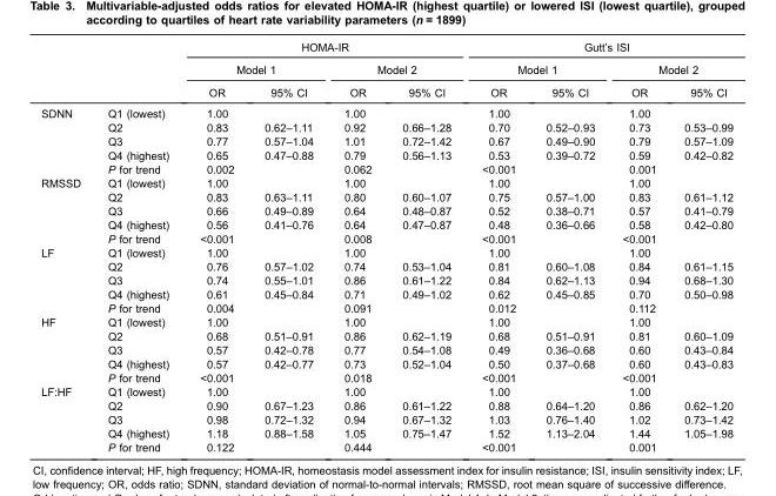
<table><thead><tr><td rowspan="3"></td><td rowspan="3"></td><td colspan="4">HOMA-IR</td><td colspan="4">Gutt’s ISI</td></tr><tr><td colspan="2">Model 1</td><td colspan="2">Model 2</td><td colspan="2">Model 1</td><td colspan="2">Model 2</td></tr><tr><td>OR</td><td>95% CI</td><td>OR</td><td>95% CI</td><td>OR</td><td>95% CI</td><td>OR</td><td>95% CI</td></tr></thead><tbody><tr><td rowspan="5">SDNN</td><td>Q1 (lowest)</td><td>1.00</td><td></td><td>1.00</td><td></td><td>1.00</td><td></td><td>1.00</td><td></td></tr><tr><td>Q2</td><td>0.83</td><td>0.62–1.11</td><td>0.92</td><td>0.66–1.28</td><td>0.70</td><td>0.52–0.93</td><td>0.73</td><td>0.53–0.99</td></tr><tr><td>Q3</td><td>0.77</td><td>0.57–1.04</td><td>1.01</td><td>0.72–1.42</td><td>0.67</td><td>0.49–0.90</td><td>0.79</td><td>0.57–1.09</td></tr><tr><td>Q4 (highest)</td><td>0.65</td><td>0.47–0.88</td><td>0.79</td><td>0.56–1.13</td><td>0.53</td><td>0.39–0.72</td><td>0.59</td><td>0.42–0.82</td></tr><tr><td>P for trend</td><td>0.002</td><td></td><td>0.062</td><td></td><td>&lt;0.001</td><td></td><td>0.001</td><td></td></tr><tr><td rowspan="5">RMSSD</td><td>Q1 (lowest)</td><td>1.00</td><td></td><td>1.00</td><td></td><td>1.00</td><td></td><td>1.00</td><td></td></tr><tr><td>Q2</td><td>0.83</td><td>0.63–1.11</td><td>0.80</td><td>0.60–1.07</td><td>0.75</td><td>0.57–1.00</td><td>0.83</td><td>0.61–1.12</td></tr><tr><td>Q3</td><td>0.66</td><td>0.49–0.89</td><td>0.64</td><td>0.48–0.87</td><td>0.52</td><td>0.38–0.71</td><td>0.57</td><td>0.41–0.79</td></tr><tr><td>Q4 (highest)</td><td>0.56</td><td>0.41–0.76</td><td>0.64</td><td>0.47–0.87</td><td>0.48</td><td>0.36–0.66</td><td>0.58</td><td>0.42–0.80</td></tr><tr><td>P for trend</td><td>&lt;0.001</td><td></td><td>0.008</td><td></td><td>&lt;0.001</td><td></td><td>&lt;0.001</td><td></td></tr><tr><td rowspan="5">LF</td><td>Q1 (lowest)</td><td>1.00</td><td></td><td>1.00</td><td></td><td>1.00</td><td></td><td>1.00</td><td></td></tr><tr><td>Q2</td><td>0.76</td><td>0.57–1.02</td><td>0.74</td><td>0.53–1.04</td><td>0.81</td><td>0.60–1.08</td><td>0.84</td><td>0.61–1.15</td></tr><tr><td>Q3</td><td>0.74</td><td>0.55–1.01</td><td>0.86</td><td>0.61–1.22</td><td>0.84</td><td>0.62–1.13</td><td>0.94</td><td>0.68–1.30</td></tr><tr><td>Q4 (highest)</td><td>0.61</td><td>0.45–0.84</td><td>0.71</td><td>0.49–1.02</td><td>0.62</td><td>0.45–0.85</td><td>0.70</td><td>0.50–0.98</td></tr><tr><td>P for trend</td><td>0.004</td><td></td><td>0.091</td><td></td><td>0.012</td><td></td><td>0.112</td><td></td></tr><tr><td rowspan="5">HF</td><td>Q1 (lowest)</td><td>1.00</td><td></td><td>1.00</td><td></td><td>1.00</td><td></td><td>1.00</td><td></td></tr><tr><td>Q2</td><td>0.68</td><td>0.51–0.91</td><td>0.86</td><td>0.62–1.19</td><td>0.68</td><td>0.51–0.91</td><td>0.81</td><td>0.60–1.09</td></tr><tr><td>Q3</td><td>0.57</td><td>0.42–0.78</td><td>0.77</td><td>0.54–1.08</td><td>0.49</td><td>0.36–0.68</td><td>0.60</td><td>0.43–0.84</td></tr><tr><td>Q4 (highest)</td><td>0.57</td><td>0.42–0.77</td><td>0.73</td><td>0.52–1.04</td><td>0.50</td><td>0.37–0.68</td><td>0.60</td><td>0.43–0.83</td></tr><tr><td>P for trend</td><td>&lt;0.001</td><td></td><td>0.018</td><td></td><td>&lt;0.001</td><td></td><td>&lt;0.001</td><td></td></tr><tr><td rowspan="5">LF:HF</td><td>Q1 (lowest)</td><td>1.00</td><td></td><td>1.00</td><td></td><td>1.00</td><td></td><td>1.00</td><td></td></tr><tr><td>Q2</td><td>0.90</td><td>0.67–1.23</td><td>0.86</td><td>0.61–1.22</td><td>0.88</td><td>0.64–1.20</td><td>0.86</td><td>0.62–1.20</td></tr><tr><td>Q3</td><td>0.98</td><td>0.72–1.32</td><td>0.94</td><td>0.67–1.32</td><td>1.03</td><td>0.76–1.40</td><td>1.02</td><td>0.73–1.42</td></tr><tr><td>Q4 (highest)</td><td>1.18</td><td>0.88–1.58</td><td>1.05</td><td>0.75–1.47</td><td>1.52</td><td>1.13–2.04</td><td>1.44</td><td>1.05–1.98</td></tr><tr><td>P for trend</td><td>0.122</td><td></td><td>0.444</td><td></td><td>&lt;0.001</td><td></td><td>0.001</td><td></td></tr></tbody></table>